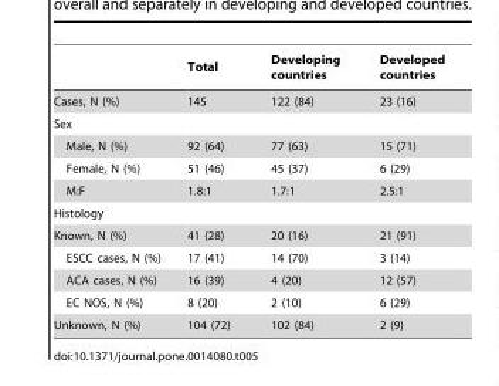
<table><thead><tr><td></td><td>Total</td><td>Developing countries</td><td>Developed countries</td></tr></thead><tbody><tr><td>Cases, N (%)</td><td>145</td><td>122 (84)</td><td>23 (16)</td></tr><tr><td colspan="4">Sex</td></tr><tr><td>Male, N (%)</td><td>92 (64)</td><td>77 (63)</td><td>15 (71)</td></tr><tr><td>Female, N (%)</td><td>51 (46)</td><td>45 (37)</td><td>6 (29)</td></tr><tr><td>M:F</td><td>1.8:1</td><td>1.7:1</td><td>2.5:1</td></tr><tr><td colspan="4">Histology</td></tr><tr><td>Known, N (%)</td><td>41 (28)</td><td>20 (16)</td><td>21 (91)</td></tr><tr><td>ESCC cases, N (%)</td><td>17 (41)</td><td>14 (70)</td><td>3 (14)</td></tr><tr><td>ACA cases, N (%)</td><td>16 (39)</td><td>4 (20)</td><td>12 (57)</td></tr><tr><td>EC NOS, N (%)</td><td>8 (20)</td><td>2 (10)</td><td>6 (29)</td></tr><tr><td>Unknown, N (%)</td><td>104 (72)</td><td>102 (84)</td><td>2 (9)</td></tr></tbody></table>